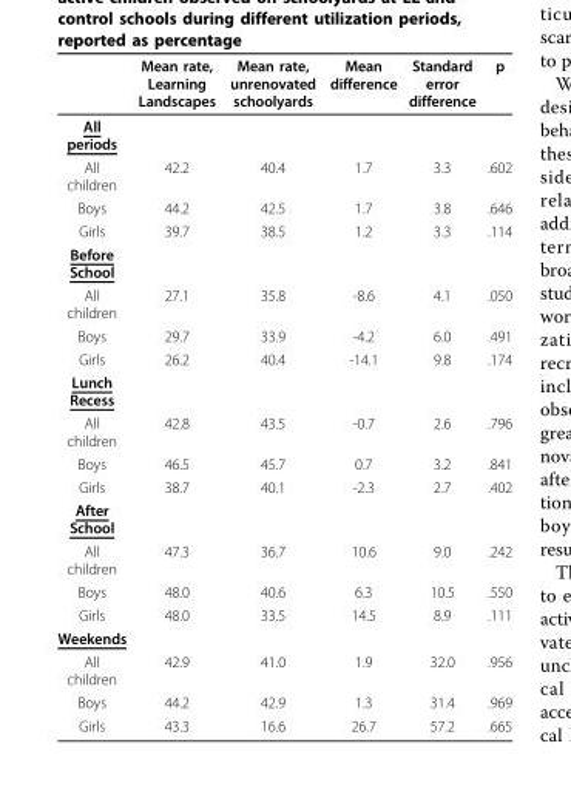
<table><thead><tr><td></td><td>Mean rate, Learning Landscapes</td><td>Mean rate, unrenovated schoolyards</td><td>Mean difference</td><td>Standard error difference</td><td>p</td></tr></thead><tbody><tr><td colspan="6">All periods</td></tr><tr><td>All children</td><td>42.2</td><td>40.4</td><td>1.7</td><td>3.3</td><td>.602</td></tr><tr><td>Boys</td><td>44.2</td><td>42.5</td><td>1.7</td><td>3.8</td><td>.646</td></tr><tr><td>Girls</td><td>39.7</td><td>38.5</td><td>1.2</td><td>3.3</td><td>.114</td></tr><tr><td colspan="6">Before School</td></tr><tr><td>All children</td><td>27.1</td><td>35.8</td><td>-8.6</td><td>4.1</td><td>.050</td></tr><tr><td>Boys</td><td>29.7</td><td>33.9</td><td>-4.2</td><td>6.0</td><td>.491</td></tr><tr><td>Girls</td><td>26.2</td><td>40.4</td><td>-14.1</td><td>9.8</td><td>.174</td></tr><tr><td colspan="6">Lunch Recess</td></tr><tr><td>All children</td><td>42.8</td><td>43.5</td><td>-0.7</td><td>2.6</td><td>.796</td></tr><tr><td>Boys</td><td>46.5</td><td>45.7</td><td>0.7</td><td>3.2</td><td>.841</td></tr><tr><td>Girls</td><td>38.7</td><td>40.1</td><td>-2.3</td><td>2.7</td><td>.402</td></tr><tr><td colspan="6">After School</td></tr><tr><td>All children</td><td>47.3</td><td>36.7</td><td>10.6</td><td>9.0</td><td>.242</td></tr><tr><td>Boys</td><td>48.0</td><td>40.6</td><td>6.3</td><td>10.5</td><td>.550</td></tr><tr><td>Girls</td><td>48.0</td><td>33.5</td><td>14.5</td><td>8.9</td><td>.111</td></tr><tr><td colspan="6">Weekends</td></tr><tr><td>All children</td><td>42.9</td><td>41.0</td><td>1.9</td><td>32.0</td><td>.956</td></tr><tr><td>Boys</td><td>44.2</td><td>42.9</td><td>1.3</td><td>31.4</td><td>.969</td></tr><tr><td>Girls</td><td>43.3</td><td>16.6</td><td>26.7</td><td>57.2</td><td>.665</td></tr></tbody></table>